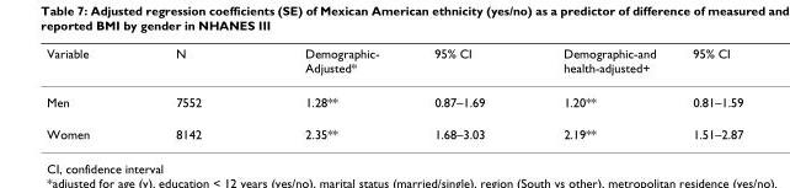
<table><thead><tr><td>Variable</td><td>N</td><td>Demographic- Adjusted*</td><td>95% CI</td><td>Demographic-and health-adjusted+</td><td>95% CI</td></tr></thead><tbody><tr><td>Men</td><td>7552</td><td>1.28**</td><td>0.87–1.69</td><td>1.20**</td><td>0.81–1.59</td></tr><tr><td>Women</td><td>8142</td><td>2.35**</td><td>1.68–3.03</td><td>2.19**</td><td>1.51–2.87</td></tr></tbody></table>